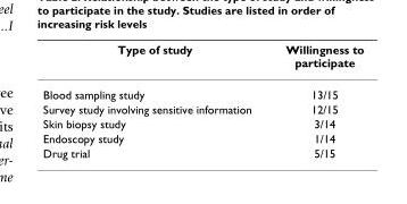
<table><thead><tr><td>Type of study</td><td>Willingness to participate</td></tr></thead><tbody><tr><td>Blood sampling study</td><td>13/15</td></tr><tr><td>Survey study involving sensitive information</td><td>12/15</td></tr><tr><td>Skin biopsy study</td><td>3/14</td></tr><tr><td>Endoscopy study</td><td>1/14</td></tr><tr><td>Drug trial</td><td>5/15</td></tr></tbody></table>